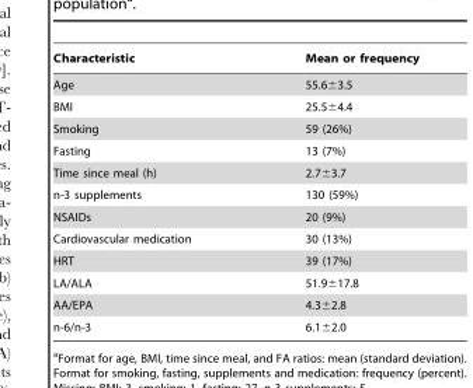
<table><thead><tr><td>Characteristic</td><td>Mean or frequency</td></tr></thead><tbody><tr><td>Age</td><td>55.6±3.5</td></tr><tr><td>BMI</td><td>25.5±4.4</td></tr><tr><td>Smoking</td><td>59 (26%)</td></tr><tr><td>Fasting</td><td>13 (7%)</td></tr><tr><td>Time since meal (h)</td><td>2.7±3.7</td></tr><tr><td>n-3 supplements</td><td>130 (59%)</td></tr><tr><td>NSAIDs</td><td>20 (9%)</td></tr><tr><td>Cardiovascular medication</td><td>30 (13%)</td></tr><tr><td>HRT</td><td>39 (17%)</td></tr><tr><td>LA/ALA</td><td>51.9±17.8</td></tr><tr><td>AA/EPA</td><td>4.3±2.8</td></tr><tr><td>n-6/n-3</td><td>6.1±2.0</td></tr></tbody></table>